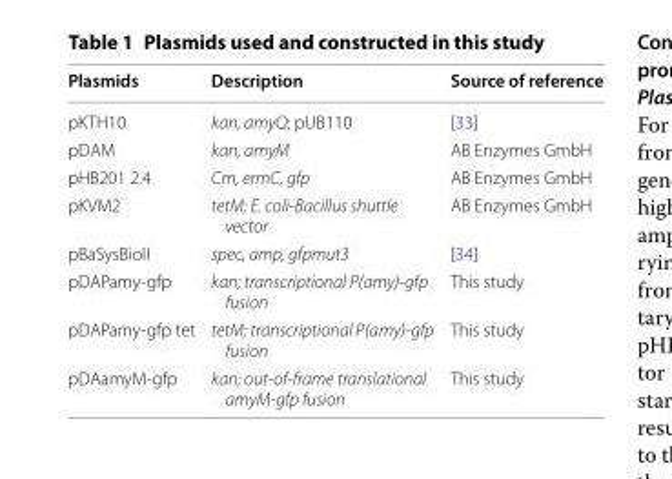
<table><thead><tr><td>Plasmids</td><td>Description</td><td>Source of reference</td></tr></thead><tbody><tr><td>pKTH10</td><td>kan, amyQ; pUB110</td><td>[33]</td></tr><tr><td>pDAM</td><td>kan, amyM</td><td>AB Enzymes GmbH</td></tr><tr><td>pHB201 2.4</td><td>Cm, ermC, gfp</td><td>AB Enzymes GmbH</td></tr><tr><td>pKVM2</td><td>tetM; E. coli-Bacillus shuttle vector</td><td>AB Enzymes GmbH</td></tr><tr><td>pBaSysBioII</td><td>spec, amp, gfpmut3</td><td>[34]</td></tr><tr><td>pDAPamy-gfp</td><td>kan; transcriptional P(amy)-gfp fusion</td><td>This study</td></tr><tr><td>pDAPamy-gfp tet</td><td>tetM; transcriptional P(amy)-gfp fusion</td><td>This study</td></tr><tr><td>pDAamyM-gfp</td><td>kan; out-of-frame translational amyM-gfp fusion</td><td>This study</td></tr></tbody></table>